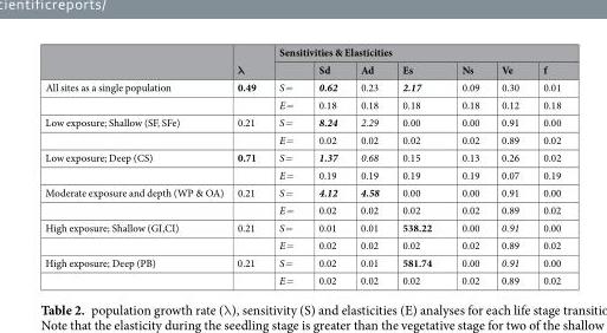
<table><thead><tr><td rowspan="2"></td><td rowspan="2">λ</td><td colspan="7">Sensitivities &amp; Elasticities</td></tr><tr><td></td><td>Sd</td><td>Ad</td><td>Es</td><td>Ns</td><td>Ve</td><td>f</td></tr></thead><tbody><tr><td rowspan="2">All sites as a single population</td><td>0.49</td><td>S=</td><td>0.62</td><td>0.23</td><td>2.17</td><td>0.09</td><td>0.30</td><td>0.01</td></tr><tr><td></td><td>E=</td><td>0.18</td><td>0.18</td><td>0.18</td><td>0.18</td><td>0.12</td><td>0.18</td></tr><tr><td rowspan="2">Low exposure; Shallow (SF, SFe)</td><td>0.21</td><td>S=</td><td>8.24</td><td>2.29</td><td>0.00</td><td>0.00</td><td>0.91</td><td>0.00</td></tr><tr><td></td><td>E=</td><td>0.02</td><td>0.02</td><td>0.02</td><td>0.02</td><td>0.89</td><td>0.02</td></tr><tr><td rowspan="2">Low exposure; Deep (CS)</td><td>0.71</td><td>S=</td><td>1.37</td><td>0.68</td><td>0.15</td><td>0.13</td><td>0.26</td><td>0.02</td></tr><tr><td></td><td>E=</td><td>0.19</td><td>0.19</td><td>0.19</td><td>0.19</td><td>0.07</td><td>0.19</td></tr><tr><td rowspan="2">Moderate exposure and depth (WP &amp; OA)</td><td>0.21</td><td>S=</td><td>4.12</td><td>4.58</td><td>0.00</td><td>0.00</td><td>0.91</td><td>0.00</td></tr><tr><td></td><td>E=</td><td>0.02</td><td>0.02</td><td>0.02</td><td>0.02</td><td>0.89</td><td>0.02</td></tr><tr><td rowspan="2">High exposure; Shallow (GI,CI)</td><td>0.21</td><td>S=</td><td>0.01</td><td>0.01</td><td>538.22</td><td>0.00</td><td>0.91</td><td>0.00</td></tr><tr><td></td><td>E=</td><td>0.02</td><td>0.02</td><td>0.02</td><td>0.02</td><td>0.89</td><td>0.02</td></tr><tr><td rowspan="2">High exposure; Deep (PB)</td><td>0.21</td><td>S=</td><td>0.02</td><td>0.01</td><td>581.74</td><td>0.00</td><td>0.91</td><td>0.00</td></tr><tr><td></td><td>E=</td><td>0.02</td><td>0.02</td><td>0.02</td><td>0.02</td><td>0.89</td><td>0.02</td></tr></tbody></table>